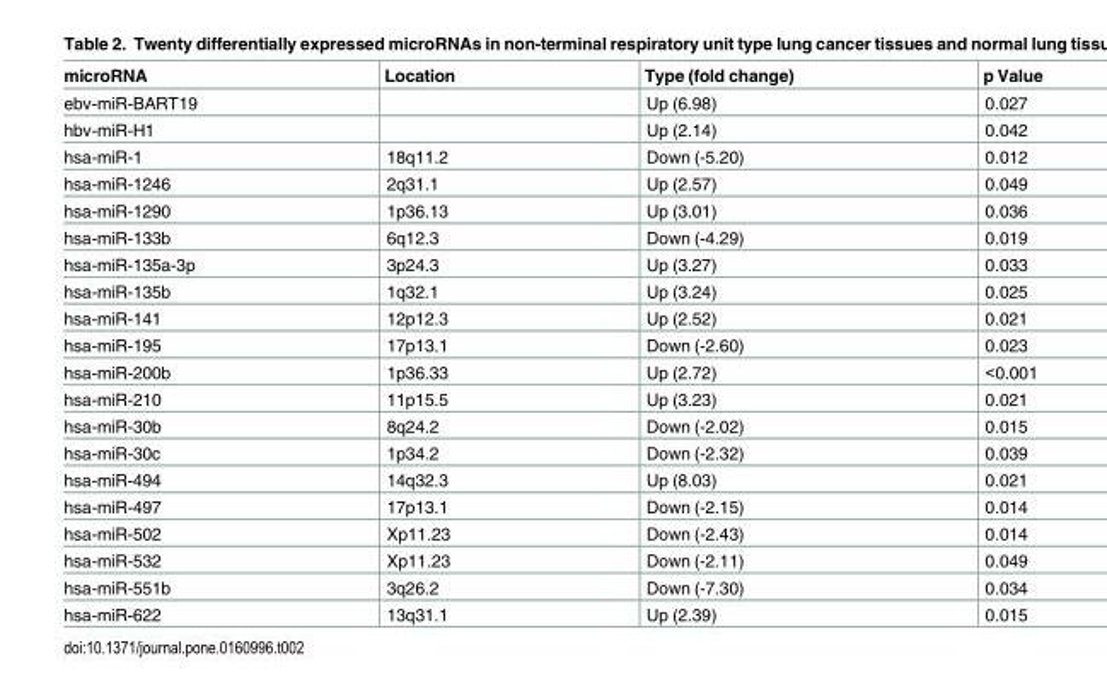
<table><thead><tr><td>microRNA</td><td>Location</td><td>Type (fold change)</td><td>p Value</td></tr></thead><tbody><tr><td>ebv-miR-BART19</td><td></td><td>Up (6.98)</td><td>0.027</td></tr><tr><td>hbv-miR-H1</td><td></td><td>Up (2.14)</td><td>0.042</td></tr><tr><td>hsa-miR-1</td><td>18q11.2</td><td>Down (-5.20)</td><td>0.012</td></tr><tr><td>hsa-miR-1246</td><td>2q31.1</td><td>Up (2.57)</td><td>0.049</td></tr><tr><td>hsa-miR-1290</td><td>1p36.13</td><td>Up (3.01)</td><td>0.036</td></tr><tr><td>hsa-miR-133b</td><td>6q12.3</td><td>Down (-4.29)</td><td>0.019</td></tr><tr><td>hsa-miR-135a-3p</td><td>3p24.3</td><td>Up (3.27)</td><td>0.033</td></tr><tr><td>hsa-miR-135b</td><td>1q32.1</td><td>Up (3.24)</td><td>0.025</td></tr><tr><td>hsa-miR-141</td><td>12p12.3</td><td>Up (2.52)</td><td>0.021</td></tr><tr><td>hsa-miR-195</td><td>17p13.1</td><td>Down (-2.60)</td><td>0.023</td></tr><tr><td>hsa-miR-200b</td><td>1p36.33</td><td>Up (2.72)</td><td>&lt;0.001</td></tr><tr><td>hsa-miR-210</td><td>11p15.5</td><td>Up (3.23)</td><td>0.021</td></tr><tr><td>hsa-miR-30b</td><td>8q24.2</td><td>Down (-2.02)</td><td>0.015</td></tr><tr><td>hsa-miR-30c</td><td>1p34.2</td><td>Down (-2.32)</td><td>0.039</td></tr><tr><td>hsa-miR-494</td><td>14q32.3</td><td>Up (8.03)</td><td>0.021</td></tr><tr><td>hsa-miR-497</td><td>17p13.1</td><td>Down (-2.15)</td><td>0.014</td></tr><tr><td>hsa-miR-502</td><td>Xp11.23</td><td>Down (-2.43)</td><td>0.014</td></tr><tr><td>hsa-miR-532</td><td>Xp11.23</td><td>Down (-2.11)</td><td>0.049</td></tr><tr><td>hsa-miR-551b</td><td>3q26.2</td><td>Down (-7.30)</td><td>0.034</td></tr><tr><td>hsa-miR-622</td><td>13q31.1</td><td>Up (2.39)</td><td>0.015</td></tr></tbody></table>